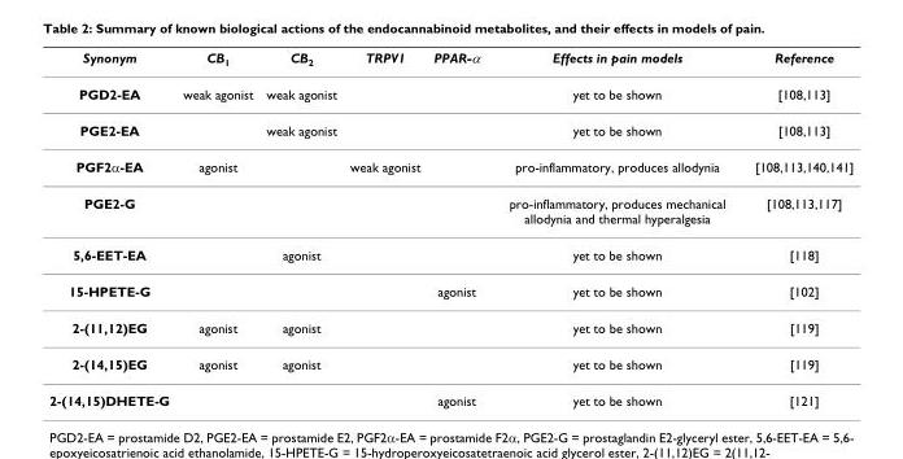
<table><thead><tr><td>Synonym</td><td>CB<sub>1</sub></td><td>CB<sub>2</sub></td><td>TRPV1</td><td>PPAR-α</td><td>Effects in pain models</td><td>Reference</td></tr></thead><tbody><tr><td>PGD2-EA</td><td>weak agonist</td><td>weak agonist</td><td></td><td></td><td>yet to be shown</td><td>[108,113]</td></tr><tr><td>PGE2-EA</td><td></td><td>weak agonist</td><td></td><td></td><td>yet to be shown</td><td>[108,113]</td></tr><tr><td>PGF2α-EA</td><td>agonist</td><td></td><td>weak agonist</td><td></td><td>pro-inflammatory, produces allodynia</td><td>[108,113,140,141]</td></tr><tr><td>PGE2-G</td><td></td><td></td><td></td><td></td><td>pro-inflammatory, produces mechanical allodynia and thermal hyperalgesia</td><td>[108,113,117]</td></tr><tr><td>5,6-EET-EA</td><td></td><td>agonist</td><td></td><td></td><td>yet to be shown</td><td>[118]</td></tr><tr><td>15-HPETE-G</td><td></td><td></td><td></td><td>agonist</td><td>yet to be shown</td><td>[102]</td></tr><tr><td>2-(11,12)EG</td><td>agonist</td><td>agonist</td><td></td><td></td><td>yet to be shown</td><td>[119]</td></tr><tr><td>2-(14,15)EG</td><td>agonist</td><td>agonist</td><td></td><td></td><td>yet to be shown</td><td>[119]</td></tr><tr><td>2-(14,15)DHETE-G</td><td></td><td></td><td></td><td>agonist</td><td>yet to be shown</td><td>[121]</td></tr></tbody></table>